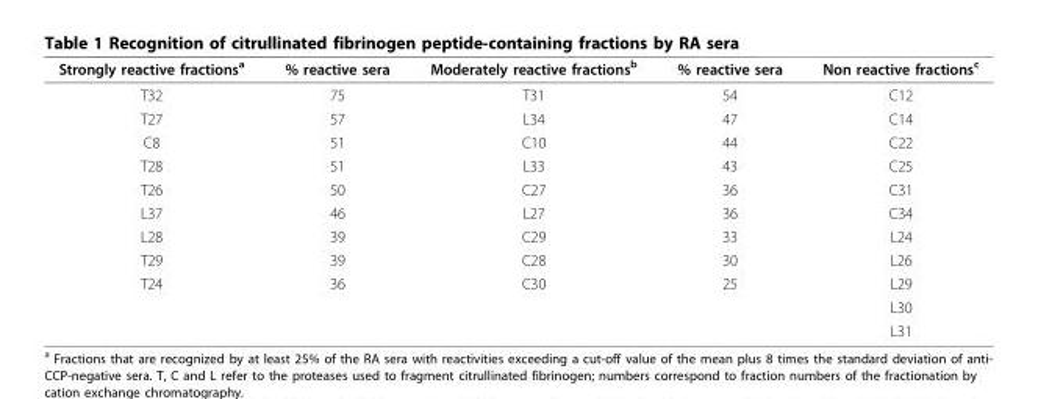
<table><thead><tr><td>Strongly reactive fractions<sup>a</sup></td><td>% reactive sera</td><td>Moderately reactive fractions<sup>b</sup></td><td>% reactive sera</td><td>Non reactive fractions<sup>c</sup></td></tr></thead><tbody><tr><td>T32</td><td>75</td><td>T31</td><td>54</td><td>C12</td></tr><tr><td>T27</td><td>57</td><td>L34</td><td>47</td><td>C14</td></tr><tr><td>C8</td><td>51</td><td>C10</td><td>44</td><td>C22</td></tr><tr><td>T28</td><td>51</td><td>L33</td><td>43</td><td>C25</td></tr><tr><td>T26</td><td>50</td><td>C27</td><td>36</td><td>C31</td></tr><tr><td>L37</td><td>46</td><td>L27</td><td>36</td><td>C34</td></tr><tr><td>L28</td><td>39</td><td>C29</td><td>33</td><td>L24</td></tr><tr><td>T29</td><td>39</td><td>C28</td><td>30</td><td>L26</td></tr><tr><td rowspan="3">T24</td><td>36</td><td>C30</td><td>25</td><td>L29</td></tr><tr><td></td><td></td><td></td><td>L30</td></tr><tr><td></td><td></td><td></td><td>L31</td></tr></tbody></table>